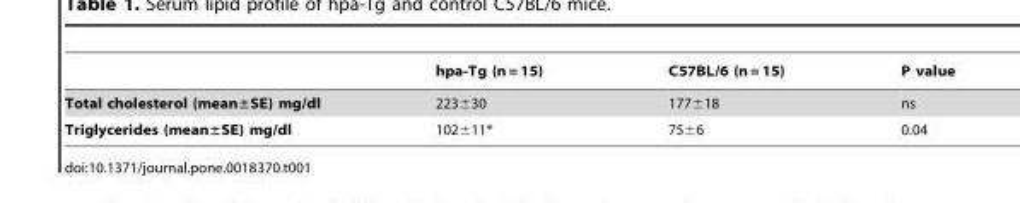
<table><thead><tr><td></td><td>hpa-Tg (n = 15)</td><td>C57BL/6 (n = 15)</td><td>P value</td></tr></thead><tbody><tr><td>Total cholesterol (mean±SE) mg/dl</td><td>223±30</td><td>177±18</td><td>ns</td></tr><tr><td>Triglycerides (mean±SE) mg/dl</td><td>102±11*</td><td>75±6</td><td>0.04</td></tr></tbody></table>